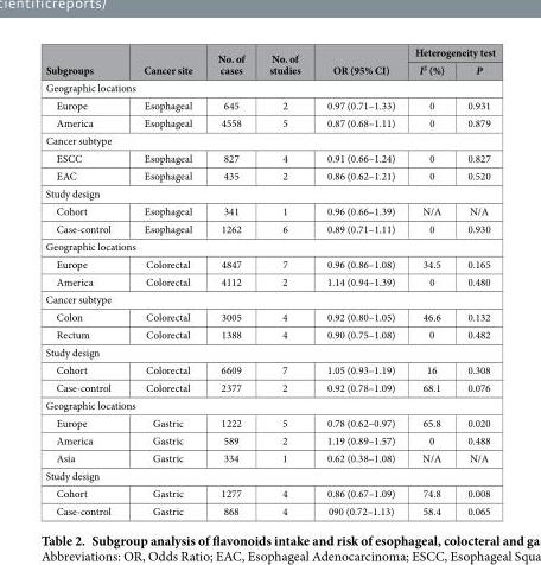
<table><thead><tr><td rowspan="2">Subgroups</td><td rowspan="2">Cancer site</td><td rowspan="2">No. of cases</td><td rowspan="2">No. of studies</td><td rowspan="2">OR (95% CI)</td><td colspan="2">Heterogeneity test</td></tr><tr><td>I<sup>2</sup> (%)</td><td>P</td></tr></thead><tbody><tr><td colspan="7">Geographic locations</td></tr><tr><td>Europe</td><td>Esophageal</td><td>645</td><td>2</td><td>0.97 (0.71–1.33)</td><td>0</td><td>0.931</td></tr><tr><td>America</td><td>Esophageal</td><td>4558</td><td>5</td><td>0.87 (0.68–1.11)</td><td>0</td><td>0.879</td></tr><tr><td colspan="7">Cancer subtype</td></tr><tr><td>ESCC</td><td>Esophageal</td><td>827</td><td>4</td><td>0.91 (0.66–1.24)</td><td>0</td><td>0.827</td></tr><tr><td>EAC</td><td>Esophageal</td><td>435</td><td>2</td><td>0.86 (0.62–1.21)</td><td>0</td><td>0.520</td></tr><tr><td colspan="7">Study design</td></tr><tr><td>Cohort</td><td>Esophageal</td><td>341</td><td>1</td><td>0.96 (0.66–1.39)</td><td>N/A</td><td>N/A</td></tr><tr><td>Case-control</td><td>Esophageal</td><td>1262</td><td>6</td><td>0.89 (0.71–1.11)</td><td>0</td><td>0.930</td></tr><tr><td colspan="7">Geographic locations</td></tr><tr><td>Europe</td><td>Colorectal</td><td>4847</td><td>7</td><td>0.96 (0.86–1.08)</td><td>34.5</td><td>0.165</td></tr><tr><td>America</td><td>Colorectal</td><td>4112</td><td>2</td><td>1.14 (0.94–1.39)</td><td>0</td><td>0.480</td></tr><tr><td colspan="7">Cancer subtype</td></tr><tr><td>Colon</td><td>Colorectal</td><td>3005</td><td>4</td><td>0.92 (0.80–1.05)</td><td>46.6</td><td>0.132</td></tr><tr><td>Rectum</td><td>Colorectal</td><td>1388</td><td>4</td><td>0.90 (0.75–1.08)</td><td>0</td><td>0.482</td></tr><tr><td colspan="7">Study design</td></tr><tr><td>Cohort</td><td>Colorectal</td><td>6609</td><td>7</td><td>1.05 (0.93–1.19)</td><td>16</td><td>0.308</td></tr><tr><td>Case-control</td><td>Colorectal</td><td>2377</td><td>2</td><td>0.92 (0.78–1.09)</td><td>68.1</td><td>0.076</td></tr><tr><td colspan="7">Geographic locations</td></tr><tr><td>Europe</td><td>Gastric</td><td>1222</td><td>5</td><td>0.78 (0.62–0.97)</td><td>65.8</td><td>0.020</td></tr><tr><td>America</td><td>Gastric</td><td>589</td><td>2</td><td>1.19 (0.89–1.57)</td><td>0</td><td>0.488</td></tr><tr><td>Asia</td><td>Gastric</td><td>334</td><td>1</td><td>0.62 (0.38–1.08)</td><td>N/A</td><td>N/A</td></tr><tr><td colspan="7">Study design</td></tr><tr><td>Cohort</td><td>Gastric</td><td>1277</td><td>4</td><td>0.86 (0.67–1.09)</td><td>74.8</td><td>0.008</td></tr><tr><td>Case-control</td><td>Gastric</td><td>868</td><td>4</td><td>090 (0.72–1.13)</td><td>58.4</td><td>0.065</td></tr></tbody></table>